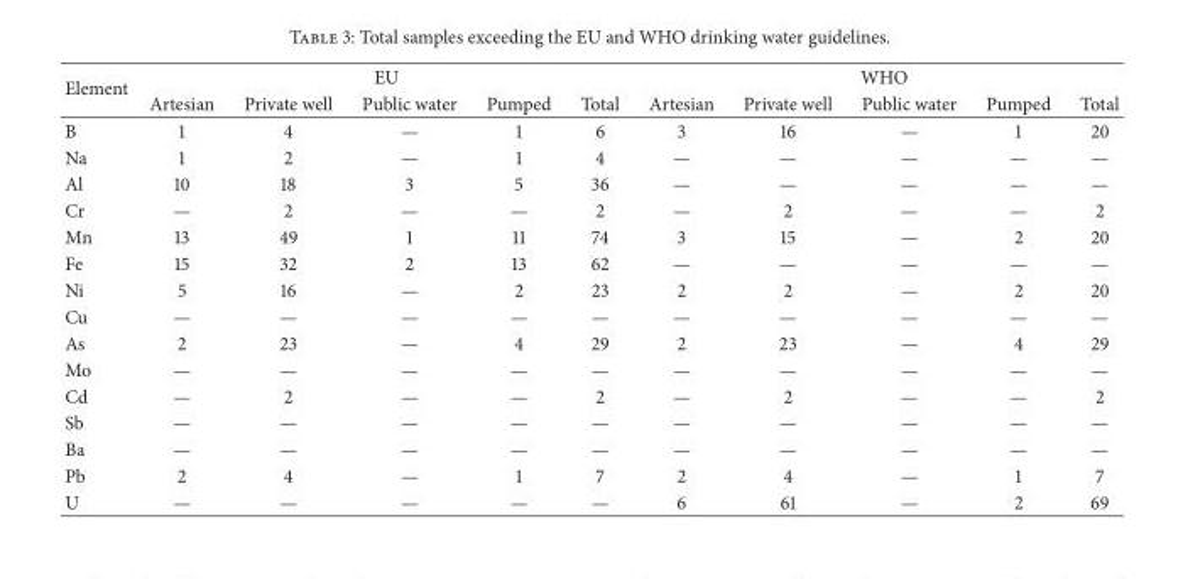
<table><thead><tr><td rowspan="2">Element</td><td colspan="5">EU</td><td colspan="5">WHO</td></tr><tr><td>Artesian</td><td>Private well</td><td>Public water</td><td>Pumped</td><td>Total</td><td>Artesian</td><td>Private well</td><td>Public water</td><td>Pumped</td><td>Total</td></tr></thead><tbody><tr><td>B</td><td>1</td><td>4</td><td>—</td><td>1</td><td>6</td><td>3</td><td>16</td><td>—</td><td>1</td><td>20</td></tr><tr><td>Na</td><td>1</td><td>2</td><td>—</td><td>1</td><td>4</td><td>—</td><td>—</td><td>—</td><td>—</td><td>—</td></tr><tr><td>Al</td><td>10</td><td>18</td><td>3</td><td>5</td><td>36</td><td>—</td><td>—</td><td>—</td><td>—</td><td>—</td></tr><tr><td>Cr</td><td>—</td><td>2</td><td>—</td><td>—</td><td>2</td><td>—</td><td>2</td><td>—</td><td>—</td><td>2</td></tr><tr><td>Mn</td><td>13</td><td>49</td><td>1</td><td>11</td><td>74</td><td>3</td><td>15</td><td>—</td><td>2</td><td>20</td></tr><tr><td>Fe</td><td>15</td><td>32</td><td>2</td><td>13</td><td>62</td><td>—</td><td>—</td><td>—</td><td>—</td><td>—</td></tr><tr><td>Ni</td><td>5</td><td>16</td><td>—</td><td>2</td><td>23</td><td>2</td><td>2</td><td>—</td><td>2</td><td>20</td></tr><tr><td>Cu</td><td>—</td><td>—</td><td>—</td><td>—</td><td>—</td><td>—</td><td>—</td><td>—</td><td>—</td><td>—</td></tr><tr><td>As</td><td>2</td><td>23</td><td>—</td><td>4</td><td>29</td><td>2</td><td>23</td><td>—</td><td>4</td><td>29</td></tr><tr><td>Mo</td><td>—</td><td>—</td><td>—</td><td>—</td><td>—</td><td>—</td><td>—</td><td>—</td><td>—</td><td>—</td></tr><tr><td>Cd</td><td>—</td><td>2</td><td>—</td><td>—</td><td>2</td><td>—</td><td>2</td><td>—</td><td>—</td><td>2</td></tr><tr><td>Sb</td><td>—</td><td>—</td><td>—</td><td>—</td><td>—</td><td>—</td><td>—</td><td>—</td><td>—</td><td>—</td></tr><tr><td>Ba</td><td>—</td><td>—</td><td>—</td><td>—</td><td>—</td><td>—</td><td>—</td><td>—</td><td>—</td><td>—</td></tr><tr><td>Pb</td><td>2</td><td>4</td><td>—</td><td>1</td><td>7</td><td>2</td><td>4</td><td>—</td><td>1</td><td>7</td></tr><tr><td>U</td><td>—</td><td>—</td><td>—</td><td>—</td><td>—</td><td>6</td><td>61</td><td>—</td><td>2</td><td>69</td></tr></tbody></table>